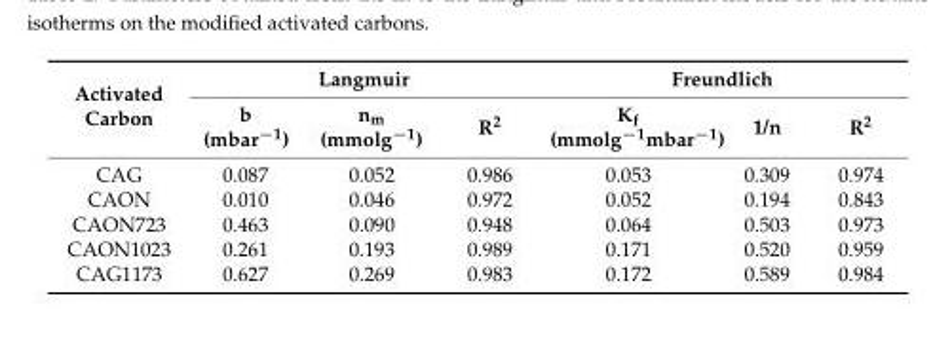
<table><thead><tr><td rowspan="2">Activated Carbon</td><td colspan="3">Langmuir</td><td colspan="3">Freundlich</td></tr><tr><td>b (mbar<sup>−1</sup>)</td><td>n<sub>m</sub> (mmolg<sup>−1</sup>)</td><td>R<sup>2</sup></td><td>K<sub>f</sub> (mmolg<sup>−1</sup>mbar<sup>−1</sup>)</td><td>1/n</td><td>R<sup>2</sup></td></tr></thead><tbody><tr><td>CAG</td><td>0.087</td><td>0.052</td><td>0.986</td><td>0.053</td><td>0.309</td><td>0.974</td></tr><tr><td>CAON</td><td>0.010</td><td>0.046</td><td>0.972</td><td>0.052</td><td>0.194</td><td>0.843</td></tr><tr><td>CAON723</td><td>0.463</td><td>0.090</td><td>0.948</td><td>0.064</td><td>0.503</td><td>0.973</td></tr><tr><td>CAON1023</td><td>0.261</td><td>0.193</td><td>0.989</td><td>0.171</td><td>0.520</td><td>0.959</td></tr><tr><td>CAG1173</td><td>0.627</td><td>0.269</td><td>0.983</td><td>0.172</td><td>0.589</td><td>0.984</td></tr></tbody></table>